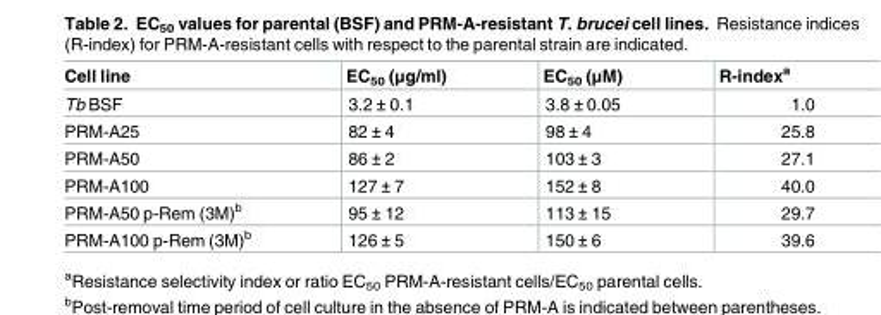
<table><thead><tr><td>Cell line</td><td>EC<sub>50</sub> (μg/ml)</td><td>EC<sub>50</sub> (μM)</td><td>R-index<sup>a</sup></td></tr></thead><tbody><tr><td>Tb BSF</td><td>3.2 ± 0.1</td><td>3.8 ± 0.05</td><td>1.0</td></tr><tr><td>PRM-A25</td><td>82 ± 4</td><td>98 ± 4</td><td>25.8</td></tr><tr><td>PRM-A50</td><td>86 ± 2</td><td>103 ± 3</td><td>27.1</td></tr><tr><td>PRM-A100</td><td>127 ± 7</td><td>152 ± 8</td><td>40.0</td></tr><tr><td>PRM-A50 p-Rem (3M)<sup>b</sup></td><td>95 ± 12</td><td>113 ± 15</td><td>29.7</td></tr><tr><td>PRM-A100 p-Rem (3M)<sup>b</sup></td><td>126 ± 5</td><td>150 ± 6</td><td>39.6</td></tr></tbody></table>